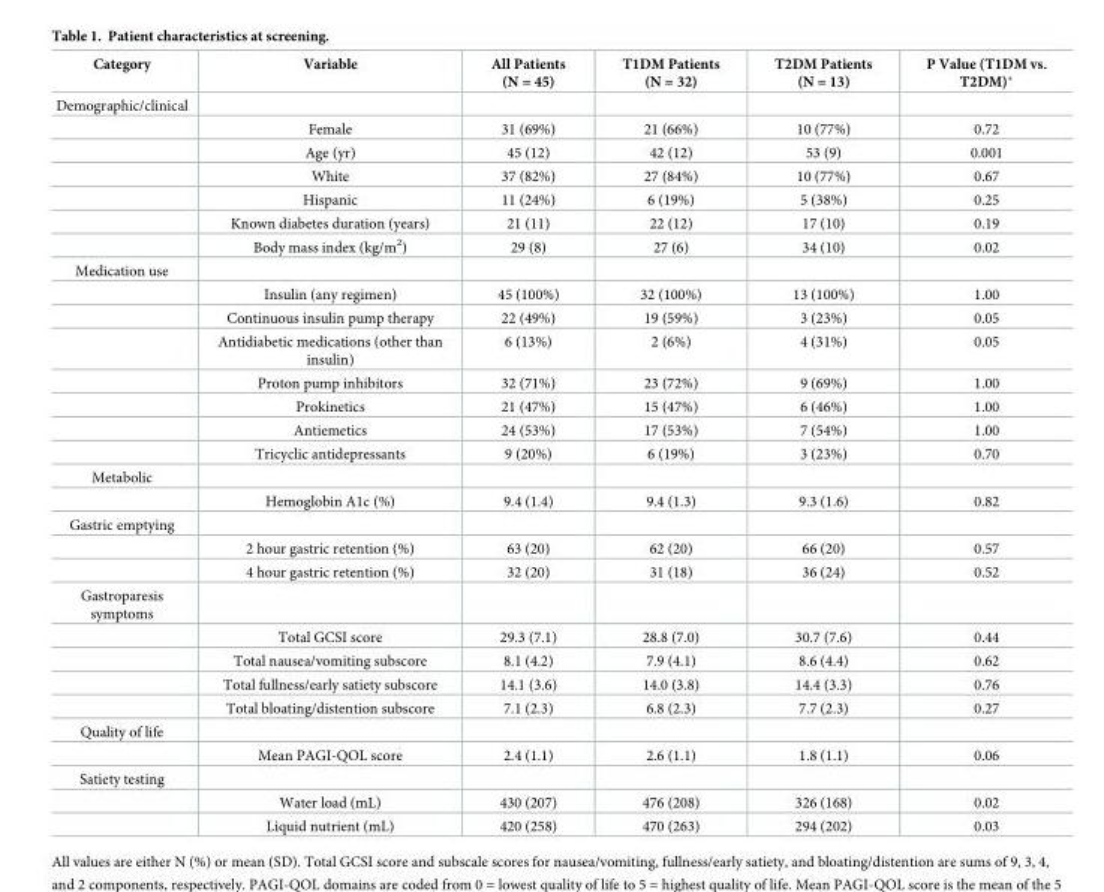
<table><thead><tr><td>Category</td><td>Variable</td><td>All Patients (N = 45)</td><td>T1DM Patients (N = 32)</td><td>T2DM Patients (N = 13)</td><td>P Value (T1DM vs. T2DM)*</td></tr></thead><tbody><tr><td colspan="6">Demographic/clinical</td></tr><tr><td></td><td>Female</td><td>31 (69%)</td><td>21 (66%)</td><td>10 (77%)</td><td>0.72</td></tr><tr><td></td><td>Age (yr)</td><td>45 (12)</td><td>42 (12)</td><td>53 (9)</td><td>0.001</td></tr><tr><td></td><td>White</td><td>37 (82%)</td><td>27 (84%)</td><td>10 (77%)</td><td>0.67</td></tr><tr><td></td><td>Hispanic</td><td>11 (24%)</td><td>6 (19%)</td><td>5 (38%)</td><td>0.25</td></tr><tr><td></td><td>Known diabetes duration (years)</td><td>21 (11)</td><td>22 (12)</td><td>17 (10)</td><td>0.19</td></tr><tr><td></td><td>Body mass index (kg/m<sup>2</sup>)</td><td>29 (8)</td><td>27 (6)</td><td>34 (10)</td><td>0.02</td></tr><tr><td colspan="6">Medication use</td></tr><tr><td></td><td>Insulin (any regimen)</td><td>45 (100%)</td><td>32 (100%)</td><td>13 (100%)</td><td>1.00</td></tr><tr><td></td><td>Continuous insulin pump therapy</td><td>22 (49%)</td><td>19 (59%)</td><td>3 (23%)</td><td>0.05</td></tr><tr><td></td><td>Antidiabetic medications (other than insulin)</td><td>6 (13%)</td><td>2 (6%)</td><td>4 (31%)</td><td>0.05</td></tr><tr><td></td><td>Proton pump inhibitors</td><td>32 (71%)</td><td>23 (72%)</td><td>9 (69%)</td><td>1.00</td></tr><tr><td></td><td>Prokinetics</td><td>21 (47%)</td><td>15 (47%)</td><td>6 (46%)</td><td>1.00</td></tr><tr><td></td><td>Antiemetics</td><td>24 (53%)</td><td>17 (53%)</td><td>7 (54%)</td><td>1.00</td></tr><tr><td></td><td>Tricyclic antidepressants</td><td>9 (20%)</td><td>6 (19%)</td><td>3 (23%)</td><td>0.70</td></tr><tr><td colspan="6">Metabolic</td></tr><tr><td></td><td>Hemoglobin A1c (%)</td><td>9.4 (1.4)</td><td>9.4 (1.3)</td><td>9.3 (1.6)</td><td>0.82</td></tr><tr><td colspan="6">Gastric emptying</td></tr><tr><td></td><td>2 hour gastric retention (%)</td><td>63 (20)</td><td>62 (20)</td><td>66 (20)</td><td>0.57</td></tr><tr><td></td><td>4 hour gastric retention (%)</td><td>32 (20)</td><td>31 (18)</td><td>36 (24)</td><td>0.52</td></tr><tr><td colspan="6">Gastroparesis symptoms</td></tr><tr><td></td><td>Total GCSI score</td><td>29.3 (7.1)</td><td>28.8 (7.0)</td><td>30.7 (7.6)</td><td>0.44</td></tr><tr><td></td><td>Total nausea/vomiting subscore</td><td>8.1 (4.2)</td><td>7.9 (4.1)</td><td>8.6 (4.4)</td><td>0.62</td></tr><tr><td></td><td>Total fullness/early satiety subscore</td><td>14.1 (3.6)</td><td>14.0 (3.8)</td><td>14.4 (3.3)</td><td>0.76</td></tr><tr><td></td><td>Total bloating/distention subscore</td><td>7.1 (2.3)</td><td>6.8 (2.3)</td><td>7.7 (2.3)</td><td>0.27</td></tr><tr><td colspan="6">Quality of life</td></tr><tr><td></td><td>Mean PAGI-QOL score</td><td>2.4 (1.1)</td><td>2.6 (1.1)</td><td>1.8 (1.1)</td><td>0.06</td></tr><tr><td colspan="6">Satiety testing</td></tr><tr><td></td><td>Water load (mL)</td><td>430 (207)</td><td>476 (208)</td><td>326 (168)</td><td>0.02</td></tr><tr><td></td><td>Liquid nutrient (mL)</td><td>420 (258)</td><td>470 (263)</td><td>294 (202)</td><td>0.03</td></tr></tbody></table>